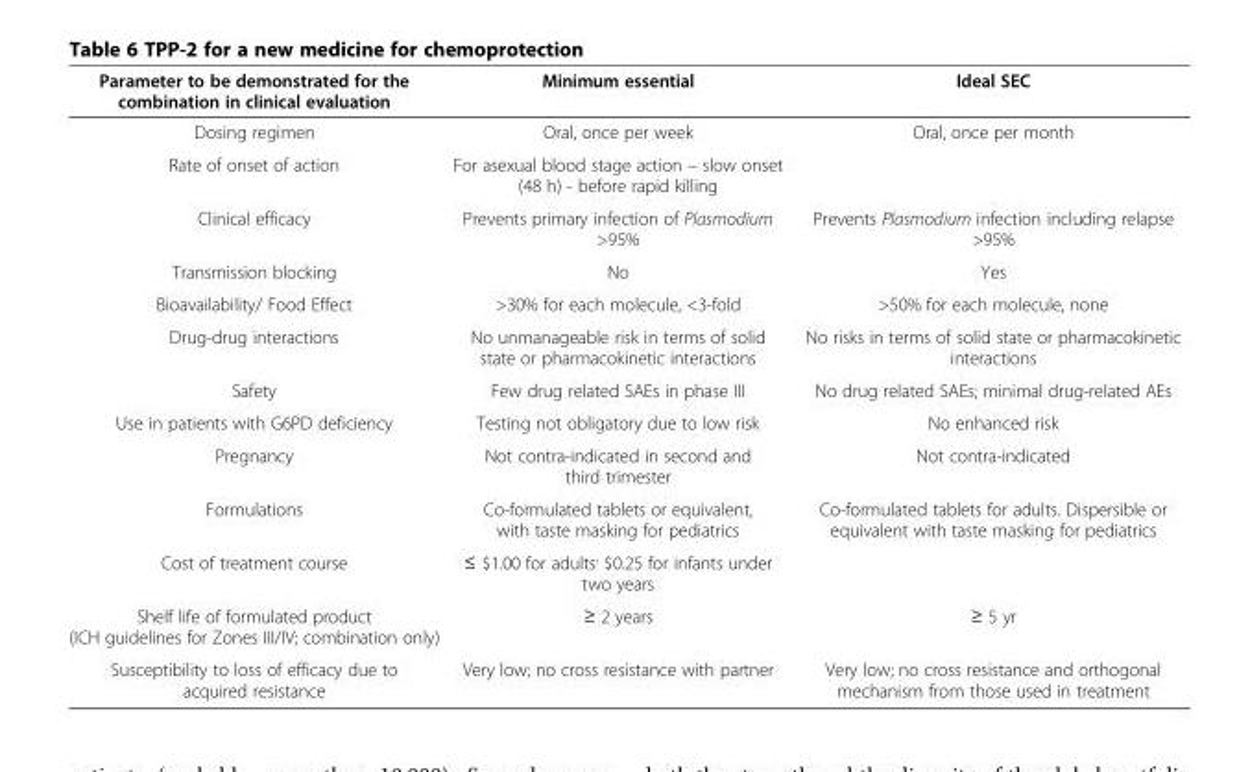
<table><thead><tr><td>Parameter to be demonstrated for the combination in clinical evaluation</td><td>Minimum essential</td><td>Ideal SEC</td></tr></thead><tbody><tr><td>Dosing regimen</td><td>Oral, once per week</td><td>Oral, once per month</td></tr><tr><td>Rate of onset of action</td><td>For asexual blood stage action – slow onset (48 h) - before rapid killing</td><td></td></tr><tr><td>Clinical efficacy</td><td>Prevents primary infection of Plasmodium &gt;95%</td><td>Prevents Plasmodium infection including relapse &gt;95%</td></tr><tr><td>Transmission blocking</td><td>No</td><td>Yes</td></tr><tr><td>Bioavailability/ Food Effect</td><td>&gt;30% for each molecule, &lt;3-fold</td><td>&gt;50% for each molecule, none</td></tr><tr><td>Drug-drug interactions</td><td>No unmanageable risk in terms of solid state or pharmacokinetic interactions</td><td>No risks in terms of solid state or pharmacokinetic interactions</td></tr><tr><td>Safety</td><td>Few drug related SAEs in phase III</td><td>No drug related SAEs; minimal drug-related AEs</td></tr><tr><td>Use in patients with G6PD deficiency</td><td>Testing not obligatory due to low risk</td><td>No enhanced risk</td></tr><tr><td>Pregnancy</td><td>Not contra-indicated in second and third trimester</td><td>Not contra-indicated</td></tr><tr><td>Formulations</td><td>Co-formulated tablets or equivalent, with taste masking for pediatrics</td><td>Co-formulated tablets for adults. Dispersible or equivalent with taste masking for pediatrics</td></tr><tr><td>Cost of treatment course</td><td>≤ $1.00 for adults<sup>,</sup> $0.25 for infants under two years</td><td></td></tr><tr><td>Shelf life of formulated product (ICH guidelines for Zones III/IV; combination only)</td><td>≥ 2 years</td><td>≥ 5 yr</td></tr><tr><td>Susceptibility to loss of efficacy due to acquired resistance</td><td>Very low; no cross resistance with partner</td><td>Very low; no cross resistance and orthogonal mechanism from those used in treatment</td></tr></tbody></table>